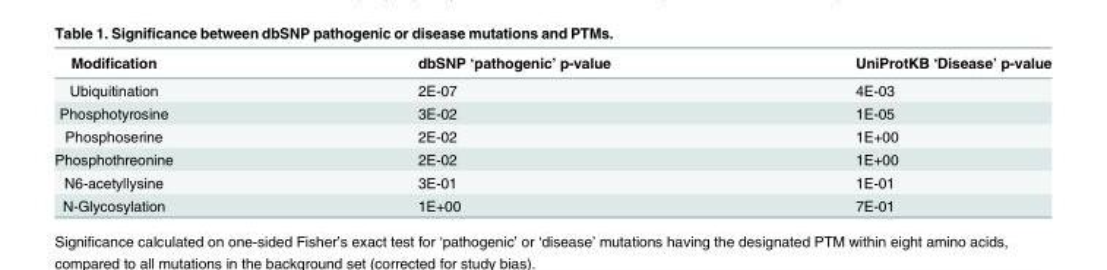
<table><thead><tr><td>Modification</td><td>dbSNP ‘pathogenic’ p-value</td><td>UniProtKB ‘Disease’ p-value</td></tr></thead><tbody><tr><td>Ubiquitination</td><td>2E-07</td><td>4E-03</td></tr><tr><td>Phosphotyrosine</td><td>3E-02</td><td>1E-05</td></tr><tr><td>Phosphoserine</td><td>2E-02</td><td>1E+00</td></tr><tr><td>Phosphothreonine</td><td>2E-02</td><td>1E+00</td></tr><tr><td>N6-acetyllysine</td><td>3E-01</td><td>1E-01</td></tr><tr><td>N-Glycosylation</td><td>1E+00</td><td>7E-01</td></tr></tbody></table>